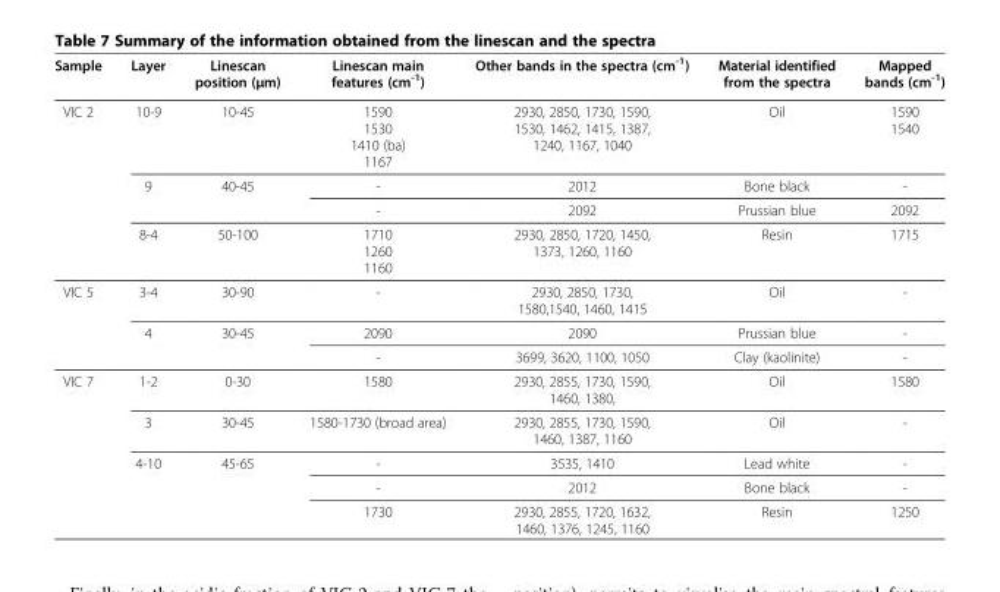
<table><thead><tr><td>Sample</td><td>Layer</td><td>Linescan position (μm)</td><td>Linescan main features (cm<sup>-1</sup>)</td><td>Other bands in the spectra (cm<sup>-1</sup>)</td><td>Material identified from the spectra</td><td>Mapped bands (cm<sup>-1</sup>)</td></tr></thead><tbody><tr><td rowspan="4">VIC 2</td><td>10-9</td><td>10-45</td><td>1590 1530 1410 (ba) 1167</td><td>2930, 2850, 1730, 1590, 1530, 1462, 1415, 1387, 1240, 1167, 1040</td><td>Oil</td><td>1590 1540</td></tr><tr><td>9</td><td>40-45</td><td>-</td><td>2012</td><td>Bone black</td><td>-</td></tr><tr><td></td><td></td><td>-</td><td>2092</td><td>Prussian blue</td><td>2092</td></tr><tr><td>8-4</td><td>50-100</td><td>1710 1260 1160</td><td>2930, 2850, 1720, 1450, 1373, 1260, 1160</td><td>Resin</td><td>1715</td></tr><tr><td rowspan="3">VIC 5</td><td>3-4</td><td>30-90</td><td>-</td><td>2930, 2850, 1730, 1580,1540, 1460, 1415</td><td>Oil</td><td>-</td></tr><tr><td>4</td><td>30-45</td><td>2090</td><td>2090</td><td>Prussian blue</td><td>-</td></tr><tr><td></td><td></td><td>-</td><td>3699, 3620, 1100, 1050</td><td>Clay (kaolinite)</td><td>-</td></tr><tr><td rowspan="5">VIC 7</td><td>1-2</td><td>0-30</td><td>1580</td><td>2930, 2855, 1730, 1590, 1460, 1380,</td><td>Oil</td><td>1580</td></tr><tr><td>3</td><td>30-45</td><td>1580-1730 (broad area)</td><td>2930, 2855, 1730, 1590, 1460, 1387, 1160</td><td>Oil</td><td>-</td></tr><tr><td>4-10</td><td>45-65</td><td>-</td><td>3535, 1410</td><td>Lead white</td><td>-</td></tr><tr><td></td><td></td><td>-</td><td>2012</td><td>Bone black</td><td>-</td></tr><tr><td></td><td></td><td>1730</td><td>2930, 2855, 1720, 1632, 1460, 1376, 1245, 1160</td><td>Resin</td><td>1250</td></tr></tbody></table>